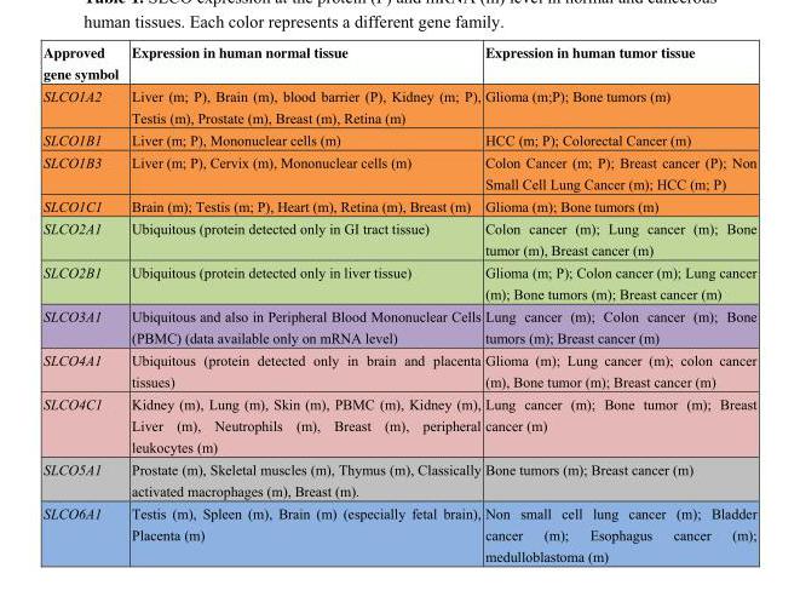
<table><thead><tr><td>Approved gene symbol</td><td>Expression in human normal tissue</td><td>Expression in human tumor tissue</td></tr></thead><tbody><tr><td>SLCO1A2</td><td>Liver (m; P), Brain (m), blood barrier (P), Kidney (m; P), Testis (m), Prostate (m), Breast (m), Retina (m)</td><td>Glioma (m;P); Bone tumors (m)</td></tr><tr><td>SLCO1B1</td><td>Liver (m; P), Mononuclear cells (m)</td><td>HCC (m; P); Colorectal Cancer (m)</td></tr><tr><td>SLCO1B3</td><td>Liver (m; P), Cervix (m), Mononuclear cells (m)</td><td>Colon Cancer (m; P); Breast cancer (P); Non Small Cell Lung Cancer (m); HCC (m; P)</td></tr><tr><td>SLCO1C1</td><td>Brain (m); Testis (m; P), Heart (m), Retina (m), Breast (m)</td><td>Glioma (m); Bone tumors (m)</td></tr><tr><td>SLCO2A1</td><td>Ubiquitous (protein detected only in GI tract tissue)</td><td>Colon cancer (m); Lung cancer (m); Bone tumor (m), Breast cancer (m)</td></tr><tr><td>SLCO2B1</td><td>Ubiquitous (protein detected only in liver tissue)</td><td>Glioma (m; P); Colon cancer (m); Lung cancer (m); Bone tumors (m); Breast cancer (m)</td></tr><tr><td>SLCO3A1</td><td>Ubiquitous and also in Peripheral Blood Mononuclear Cells (PBMC) (data available only on mRNA level)</td><td>Lung cancer (m); Colon cancer (m); Bone tumors (m); Breast cancer (m)</td></tr><tr><td>SLCO4A1</td><td>Ubiquitous (protein detected only in brain and placenta tissues)</td><td>Glioma (m); Lung cancer (m); colon cancer (m), Bone tumor (m); Breast cancer (m)</td></tr><tr><td>SLCO4C1</td><td>Kidney (m), Lung (m), Skin (m), PBMC (m), Kidney (m), Liver (m), Neutrophils (m), Breast (m), peripheral leukocytes (m)</td><td>Lung cancer (m); Bone tumor (m); Breast cancer (m)</td></tr><tr><td>SLCO5A1</td><td>Prostate (m), Skeletal muscles (m), Thymus (m), Classically activated macrophages (m), Breast (m).</td><td>Bone tumors (m); Breast cancer (m)</td></tr><tr><td>SLCO6A1</td><td>Testis (m), Spleen (m), Brain (m) (especially fetal brain), Placenta (m)</td><td>Non small cell lung cancer (m); Bladder cancer (m); Esophagus cancer (m); medulloblastoma (m)</td></tr></tbody></table>